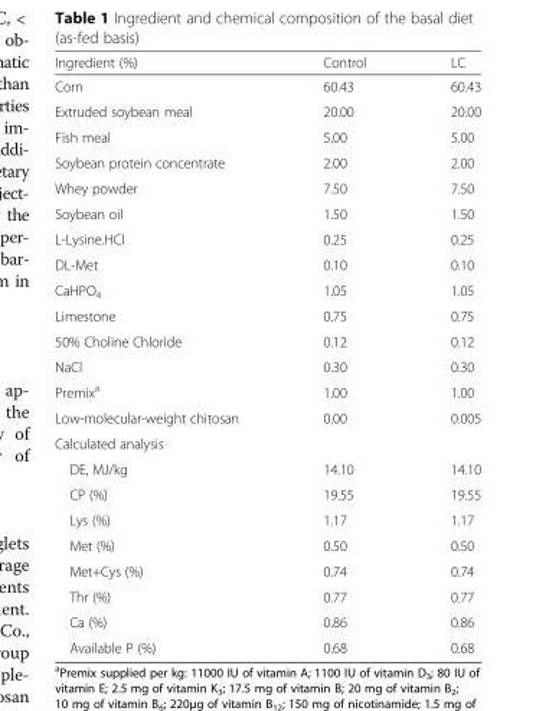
<table><thead><tr><td>Ingredient (%)</td><td>Control</td><td>LC</td></tr></thead><tbody><tr><td>Corn</td><td>60.43</td><td>60.43</td></tr><tr><td>Extruded soybean meal</td><td>20.00</td><td>20.00</td></tr><tr><td>Fish meal</td><td>5.00</td><td>5.00</td></tr><tr><td>Soybean protein concentrate</td><td>2.00</td><td>2.00</td></tr><tr><td>Whey powder</td><td>7.50</td><td>7.50</td></tr><tr><td>Soybean oil</td><td>1.50</td><td>1.50</td></tr><tr><td>L-Lysine.HCl</td><td>0.25</td><td>0.25</td></tr><tr><td>DL-Met</td><td>0.10</td><td>0.10</td></tr><tr><td>CaHPO<sub>4</sub></td><td>1.05</td><td>1.05</td></tr><tr><td>Limestone</td><td>0.75</td><td>0.75</td></tr><tr><td>50% Choline Chloride</td><td>0.12</td><td>0.12</td></tr><tr><td>NaCl</td><td>0.30</td><td>0.30</td></tr><tr><td>Premix<sup>a</sup></td><td>1.00</td><td>1.00</td></tr><tr><td>Low-molecular-weight chitosan</td><td>0.00</td><td>0.005</td></tr><tr><td colspan="3">Calculated analysis</td></tr><tr><td>DE, MJ/kg</td><td>14.10</td><td>14.10</td></tr><tr><td>CP (%)</td><td>19.55</td><td>19.55</td></tr><tr><td>Lys (%)</td><td>1.17</td><td>1.17</td></tr><tr><td>Met (%)</td><td>0.50</td><td>0.50</td></tr><tr><td>Met+Cys (%)</td><td>0.74</td><td>0.74</td></tr><tr><td>Thr (%)</td><td>0.77</td><td>0.77</td></tr><tr><td>Ca (%)</td><td>0.86</td><td>0.86</td></tr><tr><td>Available P (%)</td><td>0.68</td><td>0.68</td></tr></tbody></table>